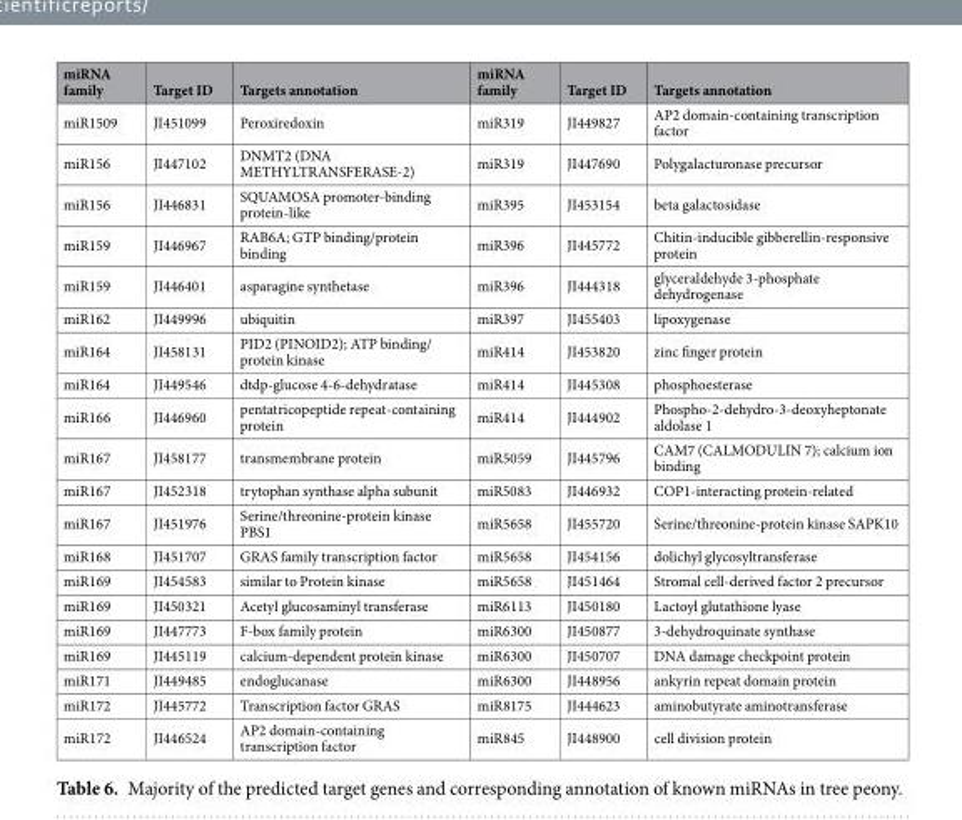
<table><thead><tr><td>miRNA family</td><td>Target ID</td><td>Targets annotation</td><td>miRNA family</td><td>Target ID</td><td>Targets annotation</td></tr></thead><tbody><tr><td>miR1509</td><td>JI451099</td><td>Peroxiredoxin</td><td>miR319</td><td>JI449827</td><td>AP2 domain-containing transcription factor</td></tr><tr><td>miR156</td><td>JI447102</td><td>DNMT2 (DNA METHYLTRANSFERASE-2)</td><td>miR319</td><td>JI447690</td><td>Polygalacturonase precursor</td></tr><tr><td>miR156</td><td>JI446831</td><td>SQUAMOSA promoter-binding protein-like</td><td>miR395</td><td>JI453154</td><td>beta galactosidase</td></tr><tr><td>miR159</td><td>JI446967</td><td>RAB6A; GTP binding/protein binding</td><td>miR396</td><td>JI445772</td><td>Chitin-inducible gibberellin-responsive protein</td></tr><tr><td>miR159</td><td>JI446401</td><td>asparagine synthetase</td><td>miR396</td><td>JI444318</td><td>glyceraldehyde 3-phosphate dehydrogenase</td></tr><tr><td>miR162</td><td>JI449996</td><td>ubiquitin</td><td>miR397</td><td>JI455403</td><td>lipoxygenase</td></tr><tr><td>miR164</td><td>JI458131</td><td>PID2 (PINOID2); ATP binding/ protein kinase</td><td>miR414</td><td>JI453820</td><td>zinc finger protein</td></tr><tr><td>miR164</td><td>JI449546</td><td>dtdp-glucose 4-6-dehydratase</td><td>miR414</td><td>JI445308</td><td>phosphoesterase</td></tr><tr><td>miR166</td><td>JI446960</td><td>pentatricopeptide repeat-containing protein</td><td>miR414</td><td>JI444902</td><td>Phospho-2-dehydro-3-deoxyheptonate aldolase 1</td></tr><tr><td>miR167</td><td>JI458177</td><td>transmembrane protein</td><td>miR5059</td><td>JI445796</td><td>CAM7 (CALMODULIN 7); calcium ion binding</td></tr><tr><td>miR167</td><td>JI452318</td><td>trytophan synthase alpha subunit</td><td>miR5083</td><td>JI446932</td><td>COP1-interacting protein-related</td></tr><tr><td>miR167</td><td>JI451976</td><td>Serine/threonine-protein kinase PBS1</td><td>miR5658</td><td>JI455720</td><td>Serine/threonine-protein kinase SAPK10</td></tr><tr><td>miR168</td><td>JI451707</td><td>GRAS family transcription factor</td><td>miR5658</td><td>JI454156</td><td>dolichyl glycosyltransferase</td></tr><tr><td>miR169</td><td>JI454583</td><td>similar to Protein kinase</td><td>miR5658</td><td>JI451464</td><td>Stromal cell-derived factor 2 precursor</td></tr><tr><td>miR169</td><td>JI450321</td><td>Acetyl glucosaminyl transferase</td><td>miR6113</td><td>JI450180</td><td>Lactoyl glutathione lyase</td></tr><tr><td>miR169</td><td>JI447773</td><td>F-box family protein</td><td>miR6300</td><td>JI450877</td><td>3-dehydroquinate synthase</td></tr><tr><td>miR169</td><td>JI445119</td><td>calcium-dependent protein kinase</td><td>miR6300</td><td>JI450707</td><td>DNA damage checkpoint protein</td></tr><tr><td>miR171</td><td>JI449485</td><td>endoglucanase</td><td>miR6300</td><td>JI448956</td><td>ankyrin repeat domain protein</td></tr><tr><td>miR172</td><td>JI445772</td><td>Transcription factor GRAS</td><td>miR8175</td><td>JI444623</td><td>aminobutyrate aminotransferase</td></tr><tr><td>miR172</td><td>JI446524</td><td>AP2 domain-containing transcription factor</td><td>miR845</td><td>JI448900</td><td>cell division protein</td></tr></tbody></table>